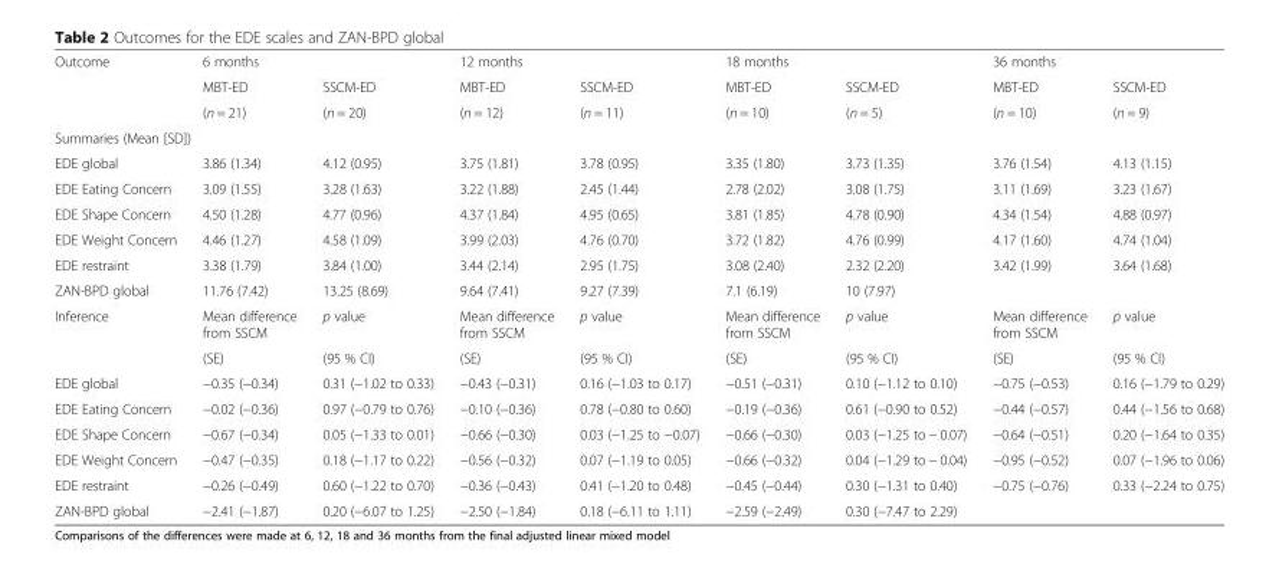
<table><tbody><tr><td rowspan="3">Outcome</td><td colspan="2">6 months</td><td colspan="2">12 months</td><td colspan="2">18 months</td><td colspan="2">36 months</td></tr><tr><td>MBT-ED</td><td>SSCM-ED</td><td>MBT-ED</td><td>SSCM-ED</td><td>MBT-ED</td><td>SSCM-ED</td><td>MBT-ED</td><td>SSCM-ED</td></tr><tr><td>(n = 21)</td><td>(n = 20)</td><td>(n = 12)</td><td>(n = 11)</td><td>(n = 10)</td><td>(n = 5)</td><td>(n = 10)</td><td>(n = 9)</td></tr><tr><td colspan="9">Summaries (Mean [SD])</td></tr><tr><td>EDE global</td><td>3.86 (1.34)</td><td>4.12 (0.95)</td><td>3.75 (1.81)</td><td>3.78 (0.95)</td><td>3.35 (1.80)</td><td>3.73 (1.35)</td><td>3.76 (1.54)</td><td>4.13 (1.15)</td></tr><tr><td>EDE Eating Concern</td><td>3.09 (1.55)</td><td>3.28 (1.63)</td><td>3.22 (1.88)</td><td>2.45 (1.44)</td><td>2.78 (2.02)</td><td>3.08 (1.75)</td><td>3.11 (1.69)</td><td>3.23 (1.67)</td></tr><tr><td>EDE Shape Concern</td><td>4.50 (1.28)</td><td>4.77 (0.96)</td><td>4.37 (1.84)</td><td>4.95 (0.65)</td><td>3.81 (1.85)</td><td>4.78 (0.90)</td><td>4.34 (1.54)</td><td>4.88 (0.97)</td></tr><tr><td>EDE Weight Concern</td><td>4.46 (1.27)</td><td>4.58 (1.09)</td><td>3.99 (2.03)</td><td>4.76 (0.70)</td><td>3.72 (1.82)</td><td>4.76 (0.99)</td><td>4.17 (1.60)</td><td>4.74 (1.04)</td></tr><tr><td>EDE restraint</td><td>3.38 (1.79)</td><td>3.84 (1.00)</td><td>3.44 (2.14)</td><td>2.95 (1.75)</td><td>3.08 (2.40)</td><td>2.32 (2.20)</td><td>3.42 (1.99)</td><td>3.64 (1.68)</td></tr><tr><td>ZAN-BPD global</td><td>11.76 (7.42)</td><td>13.25 (8.69)</td><td>9.64 (7.41)</td><td>9.27 (7.39)</td><td>7.1 (6.19)</td><td>10 (7.97)</td><td></td><td></td></tr><tr><td rowspan="2">Inference</td><td>Mean difference from SSCM</td><td>p value</td><td>Mean difference from SSCM</td><td>p value</td><td>Mean difference from SSCM</td><td>p value</td><td>Mean difference from SSCM</td><td>p value</td></tr><tr><td>(SE)</td><td>(95 % CI)</td><td>(SE)</td><td>(95 % CI)</td><td>(SE)</td><td>(95 % CI)</td><td>(SE)</td><td>(95 % CI)</td></tr><tr><td>EDE global</td><td>−0.35 (−0.34)</td><td>0.31 (−1.02 to 0.33)</td><td>−0.43 (−0.31)</td><td>0.16 (−1.03 to 0.17)</td><td>−0.51 (−0.31)</td><td>0.10 (−1.12 to 0.10)</td><td>−0.75 (−0.53)</td><td>0.16 (−1.79 to 0.29)</td></tr><tr><td>EDE Eating Concern</td><td>−0.02 (−0.36)</td><td>0.97 (−0.79 to 0.76)</td><td>−0.10 (−0.36)</td><td>0.78 (−0.80 to 0.60)</td><td>−0.19 (−0.36)</td><td>0.61 (−0.90 to 0.52)</td><td>−0.44 (−0.57)</td><td>0.44 (−1.56 to 0.68)</td></tr><tr><td>EDE Shape Concern</td><td>−0.67 (−0.34)</td><td>0.05 (−1.33 to 0.01)</td><td>−0.66 (−0.30)</td><td>0.03 (−1.25 to −0.07)</td><td>−0.66 (−0.30)</td><td>0.03 (−1.25 to − 0.07)</td><td>−0.64 (−0.51)</td><td>0.20 (−1.64 to 0.35)</td></tr><tr><td>EDE Weight Concern</td><td>−0.47 (−0.35)</td><td>0.18 (−1.17 to 0.22)</td><td>−0.56 (−0.32)</td><td>0.07 (−1.19 to 0.05)</td><td>−0.66 (−0.32)</td><td>0.04 (−1.29 to − 0.04)</td><td>−0.95 (−0.52)</td><td>0.07 (−1.96 to 0.06)</td></tr><tr><td>EDE restraint</td><td>−0.26 (−0.49)</td><td>0.60 (−1.22 to 0.70)</td><td>−0.36 (−0.43)</td><td>0.41 (−1.20 to 0.48)</td><td>−0.45 (−0.44)</td><td>0.30 (−1.31 to 0.40)</td><td>−0.75 (−0.76)</td><td>0.33 (−2.24 to 0.75)</td></tr><tr><td>ZAN-BPD global</td><td>−2.41 (−1.87)</td><td>0.20 (−6.07 to 1.25)</td><td>−2.50 (−1.84)</td><td>0.18 (−6.11 to 1.11)</td><td>−2.59 (−2.49)</td><td>0.30 (−7.47 to 2.29)</td><td></td><td></td></tr></tbody></table>